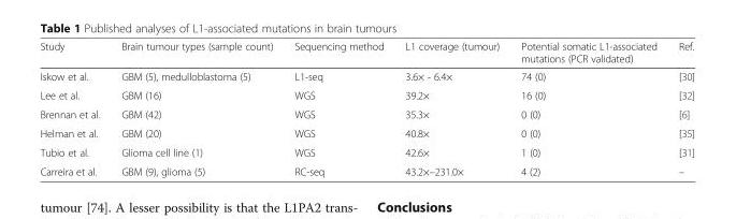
<table><thead><tr><td>Study</td><td>Brain tumour types (sample count)</td><td>Sequencing method</td><td>L1 coverage (tumour)</td><td>Potential somatic L1-associated mutations (PCR validated)</td><td>Ref.</td></tr></thead><tbody><tr><td>Iskow et al.</td><td>GBM (5), medulloblastoma (5)</td><td>L1-seq</td><td>3.6× - 6.4×</td><td>74 (0)</td><td>[30]</td></tr><tr><td>Lee et al.</td><td>GBM (16)</td><td>WGS</td><td>39.2×</td><td>16 (0)</td><td>[32]</td></tr><tr><td>Brennan et al.</td><td>GBM (42)</td><td>WGS</td><td>35.3×</td><td>0 (0)</td><td>[6]</td></tr><tr><td>Helman et al.</td><td>GBM (20)</td><td>WGS</td><td>40.8×</td><td>0 (0)</td><td>[35]</td></tr><tr><td>Tubio et al.</td><td>Glioma cell line (1)</td><td>WGS</td><td>42.6×</td><td>1 (0)</td><td>[31]</td></tr><tr><td>Carreira et al.</td><td>GBM (9), glioma (5)</td><td>RC-seq</td><td>43.2×–231.0×</td><td>4 (2)</td><td>–</td></tr></tbody></table>